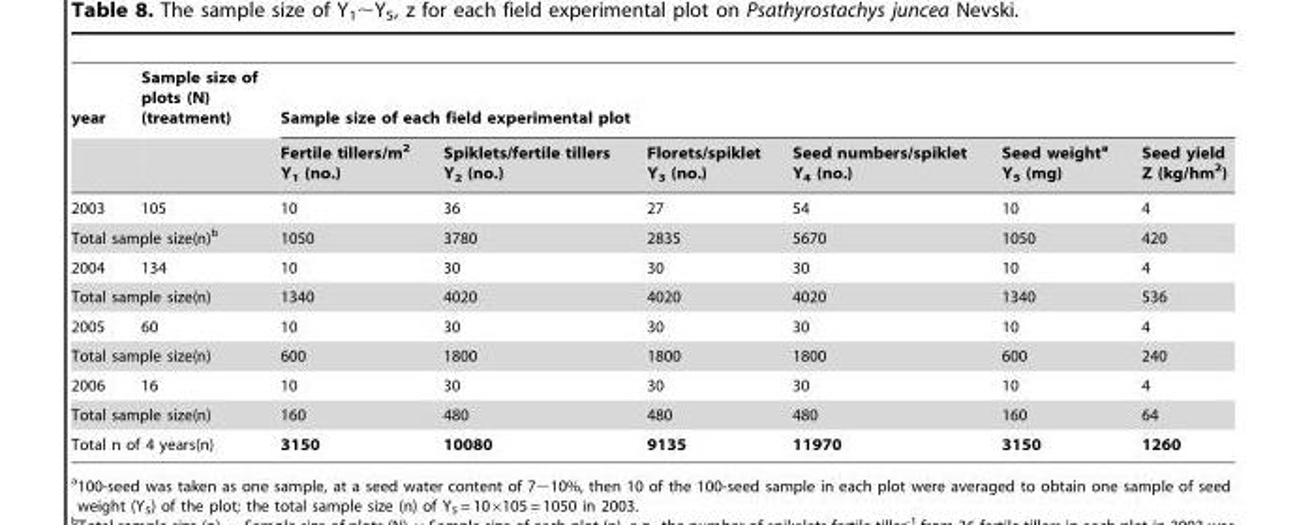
<table><thead><tr><td rowspan="2">year</td><td rowspan="2">Sample size of plots (N) (treatment)</td><td colspan="6">Sample size of each field experimental plot</td></tr><tr><td>Fertile tillers/m<sup>2</sup> Y<sub>1</sub> (no.)</td><td>Spiklets/fertile tillers Y<sub>2</sub> (no.)</td><td>Florets/spiklet Y<sub>3</sub> (no.)</td><td>Seed numbers/spiklet Y<sub>4</sub> (no.)</td><td>Seed weight<sup>a</sup> Y<sub>5</sub> (mg)</td><td>Seed yield Z (kg/hm<sup>2</sup>)</td></tr></thead><tbody><tr><td>2003</td><td>105</td><td>10</td><td>36</td><td>27</td><td>54</td><td>10</td><td>4</td></tr><tr><td colspan="2">Total sample size(n)<sup>b</sup></td><td>1050</td><td>3780</td><td>2835</td><td>5670</td><td>1050</td><td>420</td></tr><tr><td>2004</td><td>134</td><td>10</td><td>30</td><td>30</td><td>30</td><td>10</td><td>4</td></tr><tr><td colspan="2">Total sample size(n)</td><td>1340</td><td>4020</td><td>4020</td><td>4020</td><td>1340</td><td>536</td></tr><tr><td>2005</td><td>60</td><td>10</td><td>30</td><td>30</td><td>30</td><td>10</td><td>4</td></tr><tr><td colspan="2">Total sample size(n)</td><td>600</td><td>1800</td><td>1800</td><td>1800</td><td>600</td><td>240</td></tr><tr><td>2006</td><td>16</td><td>10</td><td>30</td><td>30</td><td>30</td><td>10</td><td>4</td></tr><tr><td colspan="2">Total sample size(n)</td><td>160</td><td>480</td><td>480</td><td>480</td><td>160</td><td>64</td></tr><tr><td colspan="2">Total n of 4 years(n)</td><td>3150</td><td>10080</td><td>9135</td><td>11970</td><td>3150</td><td>1260</td></tr></tbody></table>